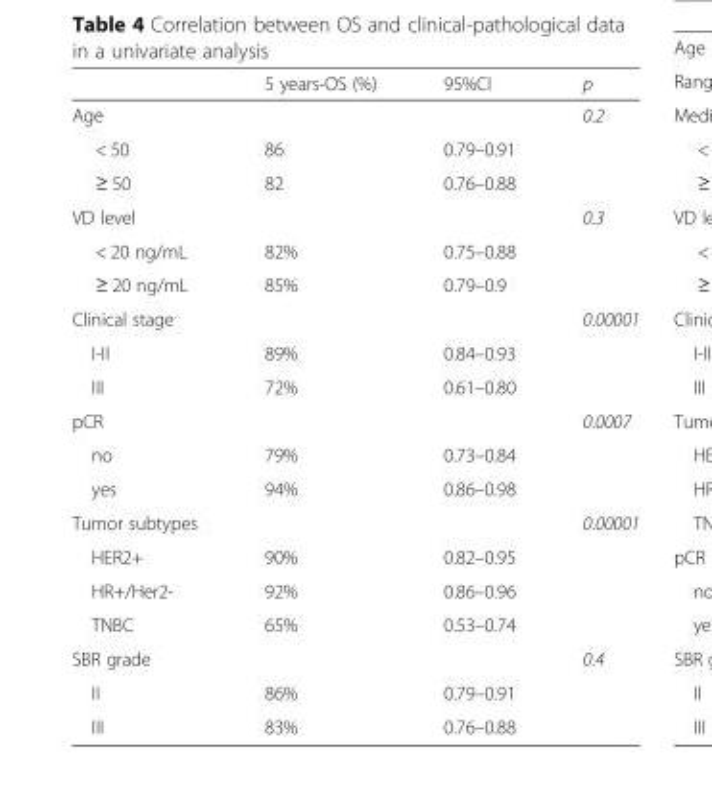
<table><thead><tr><td></td><td>5 years-OS (%)</td><td>95%CI</td><td>p</td></tr></thead><tbody><tr><td>Age</td><td></td><td></td><td>0.2</td></tr><tr><td>&lt; 50</td><td>86</td><td>0.79–0.91</td><td></td></tr><tr><td>≥ 50</td><td>82</td><td>0.76–0.88</td><td></td></tr><tr><td>VD level</td><td></td><td></td><td>0.3</td></tr><tr><td>&lt; 20 ng/mL</td><td>82%</td><td>0.75–0.88</td><td></td></tr><tr><td>≥ 20 ng/mL</td><td>85%</td><td>0.79–0.9</td><td></td></tr><tr><td>Clinical stage</td><td></td><td></td><td>0.00001</td></tr><tr><td>I-II</td><td>89%</td><td>0.84–0.93</td><td></td></tr><tr><td>III</td><td>72%</td><td>0.61–0.80</td><td></td></tr><tr><td>pCR</td><td></td><td></td><td>0.0007</td></tr><tr><td>no</td><td>79%</td><td>0.73–0.84</td><td></td></tr><tr><td>yes</td><td>94%</td><td>0.86–0.98</td><td></td></tr><tr><td>Tumor subtypes</td><td></td><td></td><td>0.00001</td></tr><tr><td>HER2+</td><td>90%</td><td>0.82–0.95</td><td></td></tr><tr><td>HR+/Her2-</td><td>92%</td><td>0.86–0.96</td><td></td></tr><tr><td>TNBC</td><td>65%</td><td>0.53–0.74</td><td></td></tr><tr><td>SBR grade</td><td></td><td></td><td>0.4</td></tr><tr><td>II</td><td>86%</td><td>0.79–0.91</td><td></td></tr><tr><td>III</td><td>83%</td><td>0.76–0.88</td><td></td></tr></tbody></table>